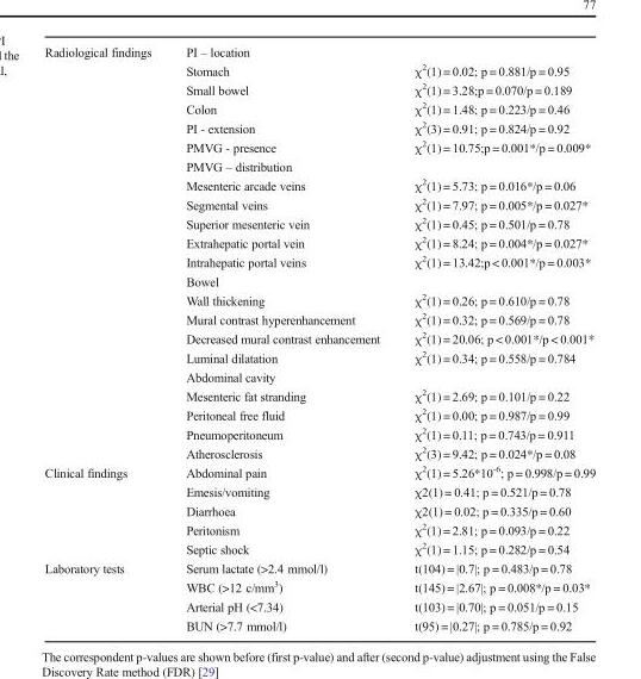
<table><tbody><tr><td rowspan="22">Radiological findings</td><td>PI – location</td><td></td></tr><tr><td>Stomach</td><td>χ<sup>2</sup>(1) = 0.02; p = 0.881/p = 0.95</td></tr><tr><td>Small bowel</td><td>χ<sup>2</sup>(1) = 3.28;p = 0.070/p = 0.189</td></tr><tr><td>Colon</td><td>χ<sup>2</sup>(1) = 1.48; p = 0.223/p = 0.46</td></tr><tr><td>PI - extension</td><td>χ<sup>2</sup>(3) = 0.91; p = 0.824/p = 0.92</td></tr><tr><td>PMVG - presence</td><td>χ<sup>2</sup>(1) = 10.75;p = 0.001*/p = 0.009*</td></tr><tr><td>PMVG – distribution</td><td></td></tr><tr><td>Mesenteric arcade veins</td><td>χ<sup>2</sup>(1) = 5.73; p = 0.016*/p = 0.06</td></tr><tr><td>Segmental veins</td><td>χ<sup>2</sup>(1) = 7.97; p = 0.005*/p = 0.027*</td></tr><tr><td>Superior mesenteric vein</td><td>χ<sup>2</sup>(1) = 0.45; p = 0.501/p = 0.78</td></tr><tr><td>Extrahepatic portal vein</td><td>χ<sup>2</sup>(1) = 8.24; p = 0.004*/p = 0.027*</td></tr><tr><td>Intrahepatic portal veins</td><td>χ<sup>2</sup>(1) = 13.42;p &lt; 0.001*/p = 0.003*</td></tr><tr><td>Bowel</td><td></td></tr><tr><td>Wall thickening</td><td>χ<sup>2</sup>(1) = 0.26; p = 0.610/p = 0.78</td></tr><tr><td>Mural contrast hyperenhancement</td><td>χ<sup>2</sup>(1) = 0.32; p = 0.569/p = 0.78</td></tr><tr><td>Decreased mural contrast enhancement</td><td>χ<sup>2</sup>(1) = 20.06; p &lt; 0.001*/p &lt; 0.001*</td></tr><tr><td>Luminal dilatation</td><td>χ<sup>2</sup>(1) = 0.34; p = 0.558/p = 0.784</td></tr><tr><td>Abdominal cavity</td><td></td></tr><tr><td>Mesenteric fat stranding</td><td>χ<sup>2</sup>(1) = 2.69; p = 0.101/p = 0.22</td></tr><tr><td>Peritoneal free fluid</td><td>χ<sup>2</sup>(1) = 0.00; p = 0.987/p = 0.99</td></tr><tr><td>Pneumoperitoneum</td><td>χ<sup>2</sup>(1) = 0.11; p = 0.743/p = 0.911</td></tr><tr><td>Atherosclerosis</td><td>χ<sup>2</sup>(3) = 9.42; p = 0.024*/p = 0.08</td></tr><tr><td rowspan="5">Clinical findings</td><td>Abdominal pain</td><td>χ<sup>2</sup>(1) = 5.26*10<sup>-6</sup>; p = 0.998/p = 0.99</td></tr><tr><td>Emesis/vomiting</td><td>χ2(1) = 0.41; p = 0.521/p = 0.78</td></tr><tr><td>Diarrhoea</td><td>χ2(1) = 0.02; p = 0.335/p = 0.60</td></tr><tr><td>Peritonism</td><td>χ<sup>2</sup>(1) = 2.81; p = 0.093/p = 0.22</td></tr><tr><td>Septic shock</td><td>χ<sup>2</sup>(1) = 1.15; p = 0.282/p = 0.54</td></tr><tr><td rowspan="4">Laboratory tests</td><td>Serum lactate (&gt;2.4 mmol/l)</td><td>t(104) = |0.7|; p = 0.483/p = 0.78</td></tr><tr><td>WBC (&gt;12 c/mm<sup>3</sup>)</td><td>t(145) = |2.67|; p = 0.008*/p = 0.03*</td></tr><tr><td>Arterial pH (&lt;7.34)</td><td>t(103) = |0.70|; p = 0.051/p = 0.15</td></tr><tr><td>BUN (&gt;7.7 mmol/l)</td><td>t(95) = |0.27|; p = 0.785/p = 0.92</td></tr></tbody></table>